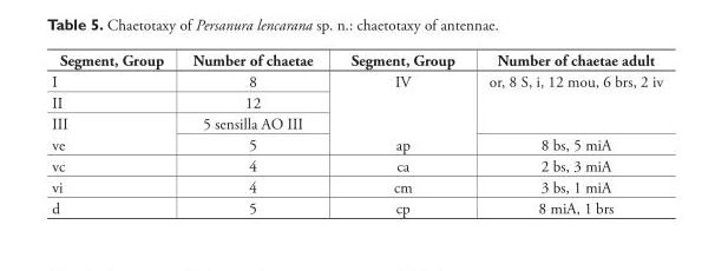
<table><thead><tr><td>Segment, Group</td><td>Number of chaetae</td><td>Segment, Group</td><td>Number of chaetae adult</td></tr></thead><tbody><tr><td>I</td><td>8</td><td rowspan="3">IV</td><td rowspan="3">or, 8 S, i, 12 mou, 6 brs, 2 iv</td></tr><tr><td>II</td><td>12</td></tr><tr><td>III</td><td>5 sensilla AO III</td></tr><tr><td>ve</td><td>5</td><td>ap</td><td>8 bs, 5 miA</td></tr><tr><td>vc</td><td>4</td><td>ca</td><td>2 bs, 3 miA</td></tr><tr><td>vi</td><td>4</td><td>cm</td><td>3 bs, 1 miA</td></tr><tr><td>d</td><td>5</td><td>cp</td><td>8 miA, 1 brs</td></tr></tbody></table>